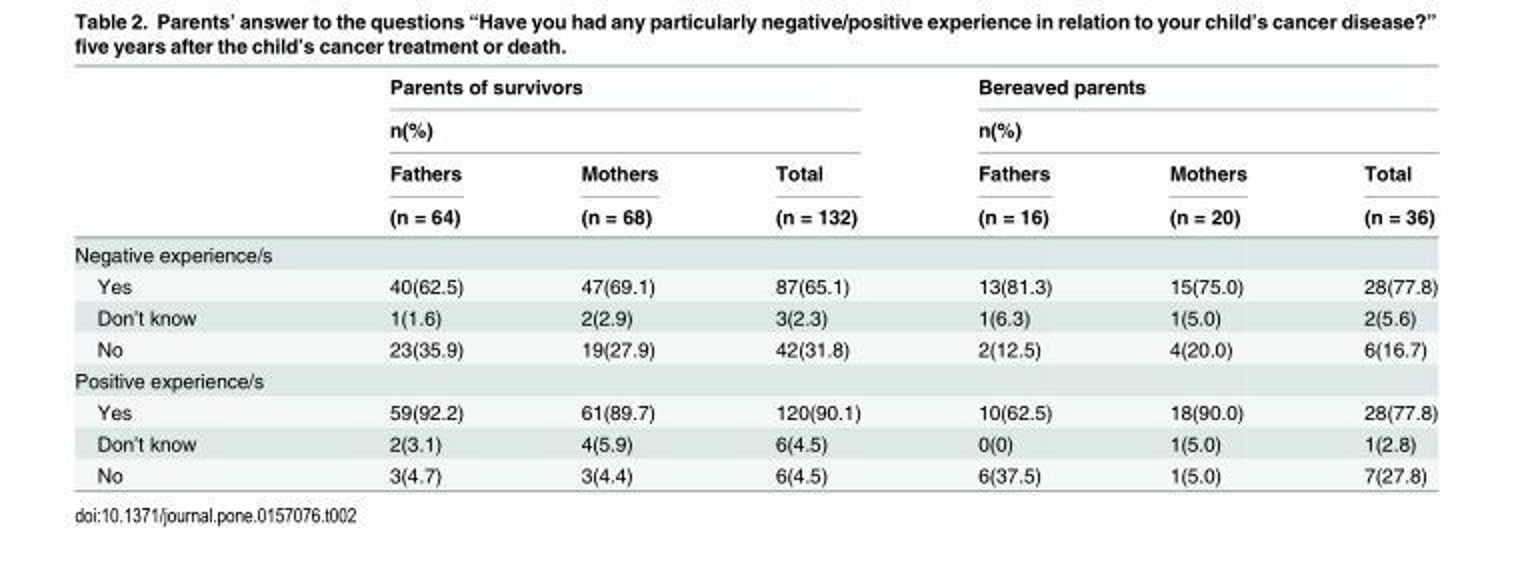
<table><thead><tr><td rowspan="4"></td><td rowspan="2" colspan="3">Parents of survivors n(%)</td><td rowspan="2" colspan="3">Bereaved parents n(%)</td></tr><tr></tr><tr><td rowspan="2">Fathers (n = 64)</td><td rowspan="2">Mothers (n = 68)</td><td rowspan="2">Total (n = 132)</td><td rowspan="2">Fathers (n = 16)</td><td rowspan="2">Mothers (n = 20)</td><td rowspan="2">Total (n = 36)</td></tr><tr></tr></thead><tbody><tr><td colspan="7">Negative experience/s</td></tr><tr><td>Yes</td><td>40(62.5)</td><td>47(69.1)</td><td>87(65.1)</td><td>13(81.3)</td><td>15(75.0)</td><td>28(77.8)</td></tr><tr><td>Don’t know</td><td>1(1.6)</td><td>2(2.9)</td><td>3(2.3)</td><td>1(6.3)</td><td>1(5.0)</td><td>2(5.6)</td></tr><tr><td>No</td><td>23(35.9)</td><td>19(27.9)</td><td>42(31.8)</td><td>2(12.5)</td><td>4(20.0)</td><td>6(16.7)</td></tr><tr><td colspan="7">Positive experience/s</td></tr><tr><td>Yes</td><td>59(92.2)</td><td>61(89.7)</td><td>120(90.1)</td><td>10(62.5)</td><td>18(90.0)</td><td>28(77.8)</td></tr><tr><td>Don’t know</td><td>2(3.1)</td><td>4(5.9)</td><td>6(4.5)</td><td>0(0)</td><td>1(5.0)</td><td>1(2.8)</td></tr><tr><td>No</td><td>3(4.7)</td><td>3(4.4)</td><td>6(4.5)</td><td>6(37.5)</td><td>1(5.0)</td><td>7(27.8)</td></tr></tbody></table>